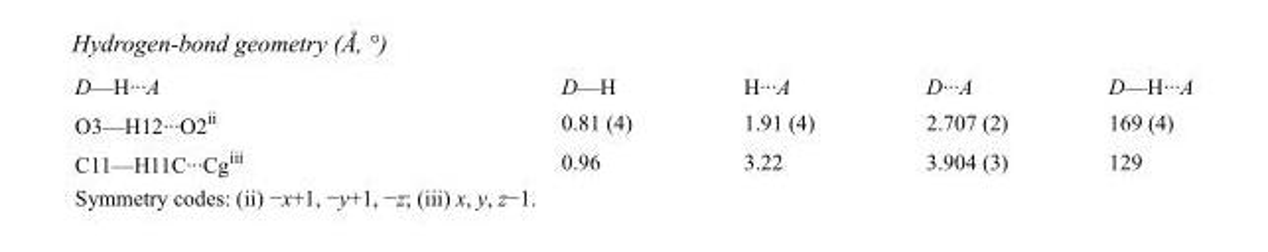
<table><tbody><tr><td>D—H···A</td><td>D—H</td><td>H···A</td><td>D···A</td><td>D—H···A</td></tr><tr><td>O3—H12···O2<sup>ii</sup></td><td>0.81 (4)</td><td>1.91 (4)</td><td>2.707 (2)</td><td>169 (4)</td></tr><tr><td>C11—H11C···Cg<sup>iii</sup></td><td>0.96</td><td>3.22</td><td>3.904 (3)</td><td>129</td></tr></tbody></table>